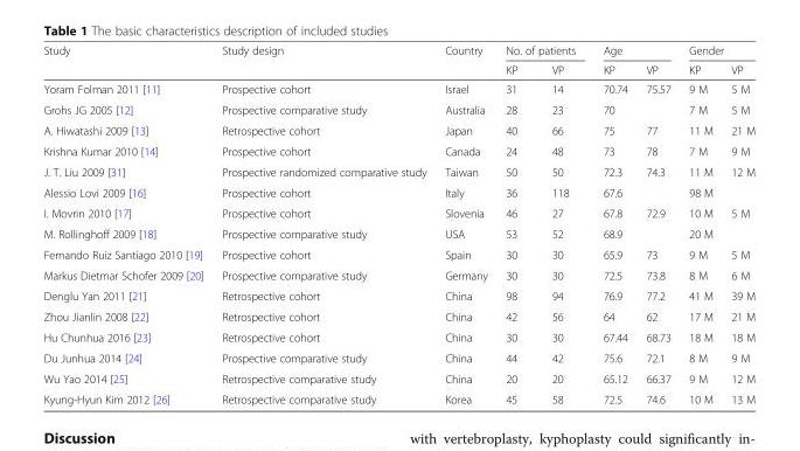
<table><thead><tr><td rowspan="2">Study</td><td rowspan="2">Study design</td><td rowspan="2">Country</td><td colspan="2">No. of patients</td><td colspan="2">Age</td><td colspan="2">Gender</td></tr><tr><td>KP</td><td>VP</td><td>KP</td><td>VP</td><td>KP</td><td>VP</td></tr></thead><tbody><tr><td>Yoram Folman 2011 [11]</td><td>Prospective cohort</td><td>Israel</td><td>31</td><td>14</td><td>70.74</td><td>75.57</td><td>9 M</td><td>5 M</td></tr><tr><td>Grohs JG 2005 [12]</td><td>Prospective comparative study</td><td>Australia</td><td>28</td><td>23</td><td colspan="2">70</td><td>7 M</td><td>5 M</td></tr><tr><td>A. Hiwatashi 2009 [13]</td><td>Retrospective cohort</td><td>Japan</td><td>40</td><td>66</td><td>75</td><td>77</td><td>11 M</td><td>21 M</td></tr><tr><td>Krishna Kumar 2010 [14]</td><td>Prospective cohort</td><td>Canada</td><td>24</td><td>48</td><td>73</td><td>78</td><td>7 M</td><td>9 M</td></tr><tr><td>J. T. Liu 2009 [31]</td><td>Prospective randomized comparative study</td><td>Taiwan</td><td>50</td><td>50</td><td>72.3</td><td>74.3</td><td>11 M</td><td>12 M</td></tr><tr><td>Alessio Lovi 2009 [16]</td><td>Prospective cohort</td><td>Italy</td><td>36</td><td>118</td><td colspan="2">67.6</td><td colspan="2">98 M</td></tr><tr><td>I. Movrin 2010 [17]</td><td>Prospective cohort</td><td>Slovenia</td><td>46</td><td>27</td><td>67.8</td><td>72.9</td><td>10 M</td><td>5 M</td></tr><tr><td>M. Rollinghoff 2009 [18]</td><td>Prospective comparative study</td><td>USA</td><td>53</td><td>52</td><td colspan="2">68.9</td><td colspan="2">20 M</td></tr><tr><td>Fernando Ruiz Santiago 2010 [19]</td><td>Prospective cohort</td><td>Spain</td><td>30</td><td>30</td><td>65.9</td><td>73</td><td>9 M</td><td>5 M</td></tr><tr><td>Markus Dietmar Schofer 2009 [20]</td><td>Prospective comparative study</td><td>Germany</td><td>30</td><td>30</td><td>72.5</td><td>73.8</td><td>8 M</td><td>6 M</td></tr><tr><td>Denglu Yan 2011 [21]</td><td>Retrospective cohort</td><td>China</td><td>98</td><td>94</td><td>76.9</td><td>77.2</td><td>41 M</td><td>39 M</td></tr><tr><td>Zhou Jianlin 2008 [22]</td><td>Retrospective cohort</td><td>China</td><td>42</td><td>56</td><td>64</td><td>62</td><td>17 M</td><td>21 M</td></tr><tr><td>Hu Chunhua 2016 [23]</td><td>Retrospective cohort</td><td>China</td><td>30</td><td>30</td><td>67.44</td><td>68.73</td><td>18 M</td><td>18 M</td></tr><tr><td>Du Junhua 2014 [24]</td><td>Prospective comparative study</td><td>China</td><td>44</td><td>42</td><td>75.6</td><td>72.1</td><td>8 M</td><td>9 M</td></tr><tr><td>Wu Yao 2014 [25]</td><td>Retrospective comparative study</td><td>China</td><td>20</td><td>20</td><td>65.12</td><td>66.37</td><td>9 M</td><td>12 M</td></tr><tr><td>Kyung-Hyun Kim 2012 [26]</td><td>Retrospective comparative study</td><td>Korea</td><td>45</td><td>58</td><td>72.5</td><td>74.6</td><td>10 M</td><td>13 M</td></tr></tbody></table>